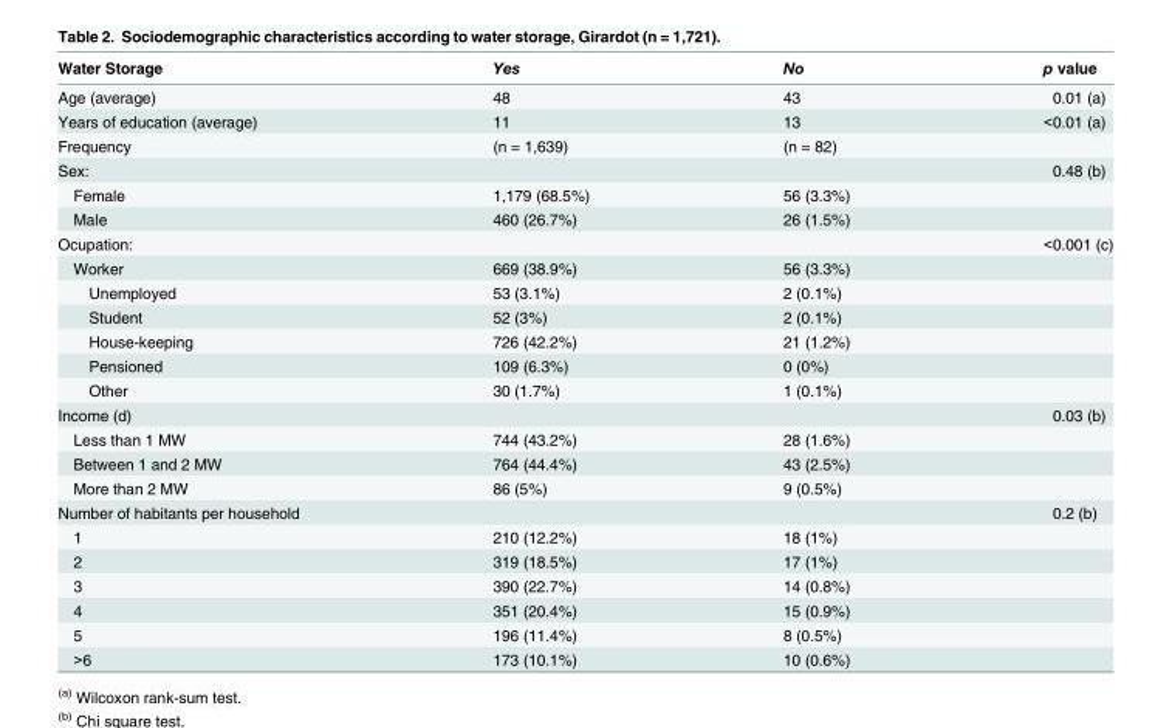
<table><thead><tr><td>Water Storage</td><td>Yes</td><td>No</td><td>p value</td></tr></thead><tbody><tr><td>Age (average)</td><td>48</td><td>43</td><td>0.01 (a)</td></tr><tr><td>Years of education (average)</td><td>11</td><td>13</td><td>&lt;0.01 (a)</td></tr><tr><td>Frequency</td><td>(n = 1,639)</td><td>(n = 82)</td><td></td></tr><tr><td>Sex:</td><td></td><td></td><td>0.48 (b)</td></tr><tr><td>Female</td><td>1,179 (68.5%)</td><td>56 (3.3%)</td><td></td></tr><tr><td>Male</td><td>460 (26.7%)</td><td>26 (1.5%)</td><td></td></tr><tr><td>Ocupation:</td><td></td><td></td><td>&lt;0.001 (c)</td></tr><tr><td>Worker</td><td>669 (38.9%)</td><td>56 (3.3%)</td><td></td></tr><tr><td>Unemployed</td><td>53 (3.1%)</td><td>2 (0.1%)</td><td></td></tr><tr><td>Student</td><td>52 (3%)</td><td>2 (0.1%)</td><td></td></tr><tr><td>House-keeping</td><td>726 (42.2%)</td><td>21 (1.2%)</td><td></td></tr><tr><td>Pensioned</td><td>109 (6.3%)</td><td>0 (0%)</td><td></td></tr><tr><td>Other</td><td>30 (1.7%)</td><td>1 (0.1%)</td><td></td></tr><tr><td>Income (d)</td><td></td><td></td><td>0.03 (b)</td></tr><tr><td>Less than 1 MW</td><td>744 (43.2%)</td><td>28 (1.6%)</td><td></td></tr><tr><td>Between 1 and 2 MW</td><td>764 (44.4%)</td><td>43 (2.5%)</td><td></td></tr><tr><td>More than 2 MW</td><td>86 (5%)</td><td>9 (0.5%)</td><td></td></tr><tr><td>Number of habitants per household</td><td></td><td></td><td>0.2 (b)</td></tr><tr><td>1</td><td>210 (12.2%)</td><td>18 (1%)</td><td></td></tr><tr><td>2</td><td>319 (18.5%)</td><td>17 (1%)</td><td></td></tr><tr><td>3</td><td>390 (22.7%)</td><td>14 (0.8%)</td><td></td></tr><tr><td>4</td><td>351 (20.4%)</td><td>15 (0.9%)</td><td></td></tr><tr><td>5</td><td>196 (11.4%)</td><td>8 (0.5%)</td><td></td></tr><tr><td>&gt;6</td><td>173 (10.1%)</td><td>10 (0.6%)</td><td></td></tr></tbody></table>